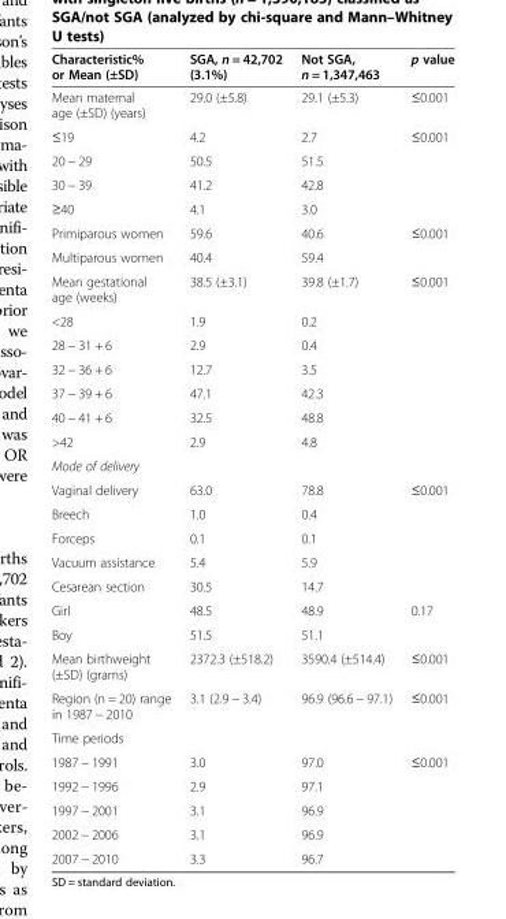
<table><thead><tr><td>Characteristic% or Mean (±SD)</td><td>SGA, n = 42,702 (3.1%)</td><td>Not SGA, n = 1,347,463</td><td>p value</td></tr></thead><tbody><tr><td>Mean maternal age (±SD) (years)</td><td>29.0 (±5.8)</td><td>29.1 (±5.3)</td><td>≤0.001</td></tr><tr><td>≤19</td><td>4.2</td><td>2.7</td><td>≤0.001</td></tr><tr><td>20 − 29</td><td>50.5</td><td>51.5</td><td></td></tr><tr><td>30 − 39</td><td>41.2</td><td>42.8</td><td></td></tr><tr><td>≥40</td><td>4.1</td><td>3.0</td><td></td></tr><tr><td>Primiparous women</td><td>59.6</td><td>40.6</td><td>≤0.001</td></tr><tr><td>Multiparous women</td><td>40.4</td><td>59.4</td><td></td></tr><tr><td>Mean gestational age (weeks)</td><td>38.5 (±3.1)</td><td>39.8 (±1.7)</td><td rowspan="7">≤0.001</td></tr><tr><td>&lt;28</td><td>1.9</td><td>0.2</td></tr><tr><td>28 − 31 + 6</td><td>2.9</td><td>0.4</td></tr><tr><td>32 − 36 + 6</td><td>12.7</td><td>3.5</td></tr><tr><td>37 − 39 + 6</td><td>47.1</td><td>42.3</td></tr><tr><td>40 − 41 + 6</td><td>32.5</td><td>48.8</td></tr><tr><td>&gt;42</td><td>2.9</td><td>4.8</td></tr><tr><td colspan="4">Mode of delivery</td></tr><tr><td>Vaginal delivery</td><td>63.0</td><td>78.8</td><td rowspan="5">≤0.001</td></tr><tr><td>Breech</td><td>1.0</td><td>0.4</td></tr><tr><td>Forceps</td><td>0.1</td><td>0.1</td></tr><tr><td>Vacuum assistance</td><td>5.4</td><td>5.9</td></tr><tr><td>Cesarean section</td><td>30.5</td><td>14.7</td></tr><tr><td>Girl</td><td>48.5</td><td>48.9</td><td rowspan="2">0.17</td></tr><tr><td>Boy</td><td>51.5</td><td>51.1</td></tr><tr><td>Mean birthweight (±SD) (grams)</td><td>2372.3 (±518.2)</td><td>3590.4 (±514.4)</td><td>≤0.001</td></tr><tr><td>Region (n = 20) range in 1987 − 2010</td><td>3.1 (2.9 − 3.4)</td><td>96.9 (96.6 − 97.1)</td><td>≤0.001</td></tr><tr><td colspan="4">Time periods</td></tr><tr><td>1987 − 1991</td><td>3.0</td><td>97.0</td><td rowspan="4">≤0.001</td></tr><tr><td>1992 − 1996</td><td>2.9</td><td>97.1</td></tr><tr><td>1997 − 2001</td><td>3.1</td><td>96.9</td></tr><tr><td>2002 − 2006</td><td>3.1</td><td>96.9</td></tr><tr><td>2007 − 2010</td><td>3.3</td><td>96.7</td><td></td></tr></tbody></table>